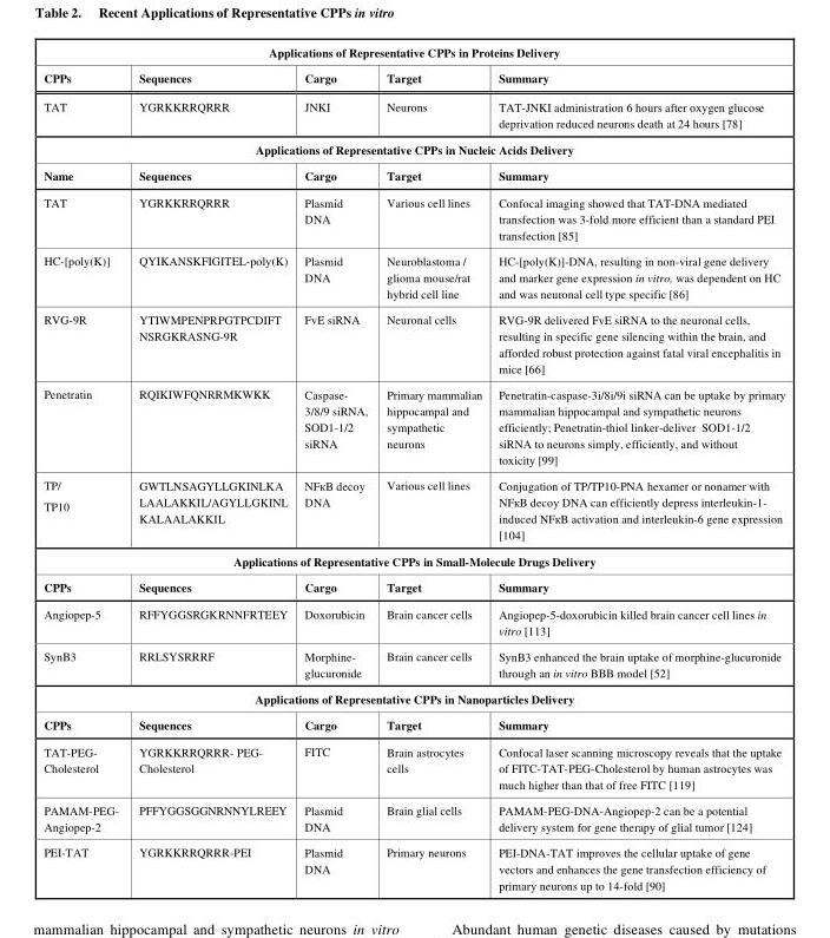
<table><tbody><tr><td colspan="5">Applications of Representative CPPs in Proteins Delivery</td></tr><tr><td>CPPs</td><td>Sequences</td><td>Cargo</td><td>Target</td><td>Summary</td></tr><tr><td>TAT</td><td>YGRKKRRQRRR</td><td>JNKI</td><td>Neurons</td><td>TAT-JNKI administration 6 hours after oxygen glucose deprivation reduced neurons death at 24 hours [78]</td></tr><tr><td colspan="5">Applications of Representative CPPs in Nucleic Acids Delivery</td></tr><tr><td>Name</td><td>Sequences</td><td>Cargo</td><td>Target</td><td>Summary</td></tr><tr><td>TAT</td><td>YGRKKRRQRRR</td><td>Plasmid DNA</td><td>Various cell lines</td><td>Confocal imaging showed that TAT-DNA mediated transfection was 3-fold more efficient than a standard PEI transfection [85]</td></tr><tr><td>HC-[poly(K)]</td><td>QYIKANSKFIGITEL-poly(K)</td><td>Plasmid DNA</td><td>Neuroblastoma / glioma mouse/rat hybrid cell line</td><td>HC-[poly(K)]-DNA, resulting in non-viral gene delivery and marker gene expression in vitro, was dependent on HC and was neuronal cell type specific [86]</td></tr><tr><td>RVG-9R</td><td>YTIWMPENPRPGTPCDIFT NSRGKRASNG-9R</td><td>FvE siRNA</td><td>Neuronal cells</td><td>RVG-9R delivered FvE siRNA to the neuronal cells, resulting in specific gene silencing within the brain, and afforded robust protection against fatal viral encephalitis in mice [66]</td></tr><tr><td>Penetratin</td><td>RQIKIWFQNRRMKWKK</td><td>Caspase- 3/8/9 siRNA, SOD1-1/2 siRNA</td><td>Primary mammalian hippocampal and sympathetic neurons</td><td>Penetratin-caspase-3i/8i/9i siRNA can be uptake by primary mammalian hippocampal and sympathetic neurons efficiently; Penetratin-thiol linker-deliver SOD1-1/2 siRNA to neurons simply, efficiently, and without toxicity [99]</td></tr><tr><td>TP/ TP10</td><td>GWTLNSAGYLLGKINLKA LAALAKKIL/AGYLLGKINL KALAALAKKIL</td><td>NFкB decoy DNA</td><td>Various cell lines</td><td>Conjugation of TP/TP10-PNA hexamer or nonamer with NFкB decoy DNA can efficiently depress interleukin-1- induced NFкB activation and interleukin-6 gene expression [104]</td></tr><tr><td colspan="5">Applications of Representative CPPs in Small-Molecule Drugs Delivery</td></tr><tr><td>CPPs</td><td>Sequences</td><td>Cargo</td><td>Target</td><td>Summary</td></tr><tr><td>Angiopep-5</td><td>RFFYGGSRGKRNNFRTEEY</td><td>Doxorubicin</td><td>Brain cancer cells</td><td>Angiopep-5-doxorubicin killed brain cancer cell lines in vitro [113]</td></tr><tr><td>SynB3</td><td>RRLSYSRRRF</td><td>Morphine- glucuronide</td><td>Brain cancer cells</td><td>SynB3 enhanced the brain uptake of morphine-glucuronide through an in vitro BBB model [52]</td></tr><tr><td colspan="5">Applications of Representative CPPs in Nanoparticles Delivery</td></tr><tr><td>CPPs</td><td>Sequences</td><td>Cargo</td><td>Target</td><td>Summary</td></tr><tr><td>TAT-PEG- Cholesterol</td><td>YGRKKRRQRRR- PEG- Cholesterol</td><td>FITC</td><td>Brain astrocytes cells</td><td>Confocal laser scanning microscopy reveals that the uptake of FITC-TAT-PEG-Cholesterol by human astrocytes was much higher than that of free FITC [119]</td></tr><tr><td>PAMAM-PEG- Angiopep-2</td><td>PFFYGGSGGNRNNYLREEY</td><td>Plasmid DNA</td><td>Brain glial cells</td><td>PAMAM-PEG-DNA-Angiopep-2 can be a potential delivery system for gene therapy of glial tumor [124]</td></tr><tr><td>PEI-TAT</td><td>YGRKKRRQRRR-PEI</td><td>Plasmid DNA</td><td>Primary neurons</td><td>PEI-DNA-TAT improves the cellular uptake of gene vectors and enhances the gene transfection efficiency of primary neurons up to 14-fold [90]</td></tr></tbody></table>